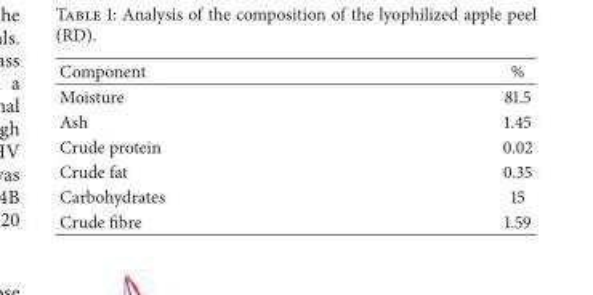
<table><thead><tr><td>Component</td><td>%</td></tr></thead><tbody><tr><td>Moisture</td><td>81.5</td></tr><tr><td>Ash</td><td>1.45</td></tr><tr><td>Crude protein</td><td>0.02</td></tr><tr><td>Crude fat</td><td>0.35</td></tr><tr><td>Carbohydrates</td><td>15</td></tr><tr><td>Crude fibre</td><td>1.59</td></tr></tbody></table>